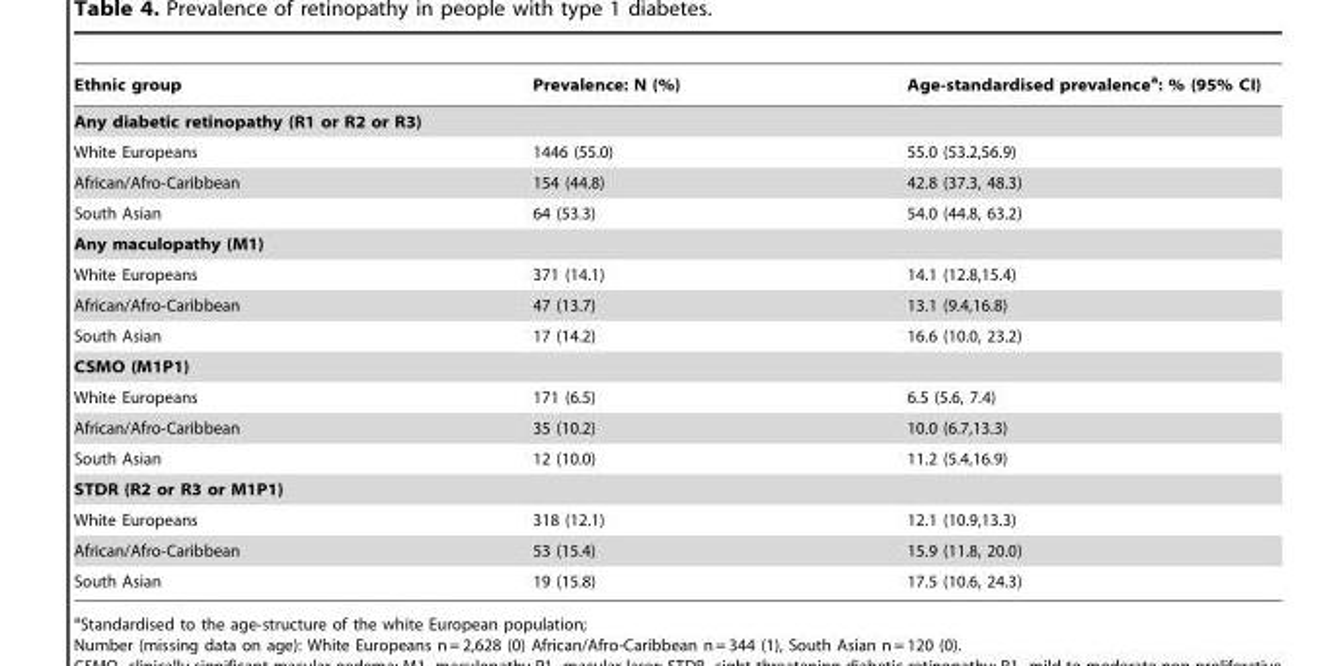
<table><thead><tr><td>Ethnic group</td><td>Prevalence: N (%)</td><td>Age-standardised prevalence<sup>a</sup>: % (95% CI)</td></tr></thead><tbody><tr><td colspan="3">Any diabetic retinopathy (R1 or R2 or R3)</td></tr><tr><td>White Europeans</td><td>1446 (55.0)</td><td>55.0 (53.2,56.9)</td></tr><tr><td>African/Afro-Caribbean</td><td>154 (44.8)</td><td>42.8 (37.3, 48.3)</td></tr><tr><td>South Asian</td><td>64 (53.3)</td><td>54.0 (44.8, 63.2)</td></tr><tr><td colspan="3">Any maculopathy (M1)</td></tr><tr><td>White Europeans</td><td>371 (14.1)</td><td>14.1 (12.8,15.4)</td></tr><tr><td>African/Afro-Caribbean</td><td>47 (13.7)</td><td>13.1 (9.4,16.8)</td></tr><tr><td>South Asian</td><td>17 (14.2)</td><td>16.6 (10.0, 23.2)</td></tr><tr><td colspan="3">CSMO (M1P1)</td></tr><tr><td>White Europeans</td><td>171 (6.5)</td><td>6.5 (5.6, 7.4)</td></tr><tr><td>African/Afro-Caribbean</td><td>35 (10.2)</td><td>10.0 (6.7,13.3)</td></tr><tr><td>South Asian</td><td>12 (10.0)</td><td>11.2 (5.4,16.9)</td></tr><tr><td colspan="3">STDR (R2 or R3 or M1P1)</td></tr><tr><td>White Europeans</td><td>318 (12.1)</td><td>12.1 (10.9,13.3)</td></tr><tr><td>African/Afro-Caribbean</td><td>53 (15.4)</td><td>15.9 (11.8, 20.0)</td></tr><tr><td>South Asian</td><td>19 (15.8)</td><td>17.5 (10.6, 24.3)</td></tr></tbody></table>